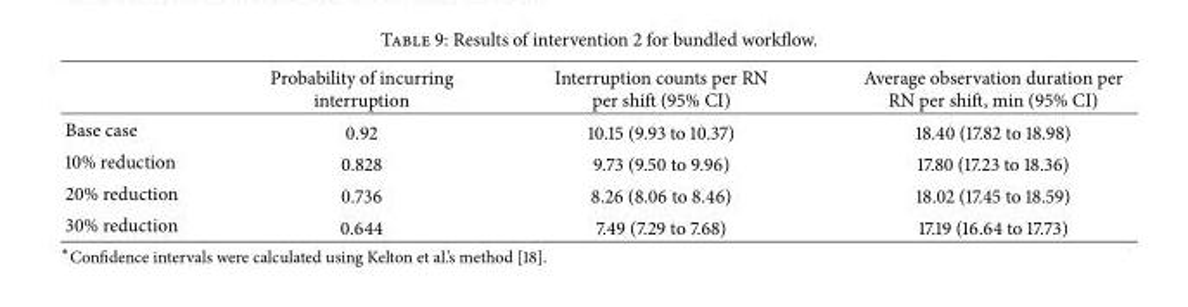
<table><thead><tr><td></td><td>Probability of incurring interruption</td><td>Interruption counts per RN per shift (95% CI)</td><td>Average observation duration per RN per shift, min (95% CI)</td></tr></thead><tbody><tr><td>Base case</td><td>0.92</td><td>10.15 (9.93 to 10.37)</td><td>18.40 (17.82 to 18.98)</td></tr><tr><td>10% reduction</td><td>0.828</td><td>9.73 (9.50 to 9.96)</td><td>17.80 (17.23 to 18.36)</td></tr><tr><td>20% reduction</td><td>0.736</td><td>8.26 (8.06 to 8.46)</td><td>18.02 (17.45 to 18.59)</td></tr><tr><td>30% reduction</td><td>0.644</td><td>7.49 (7.29 to 7.68)</td><td>17.19 (16.64 to 17.73)</td></tr></tbody></table>